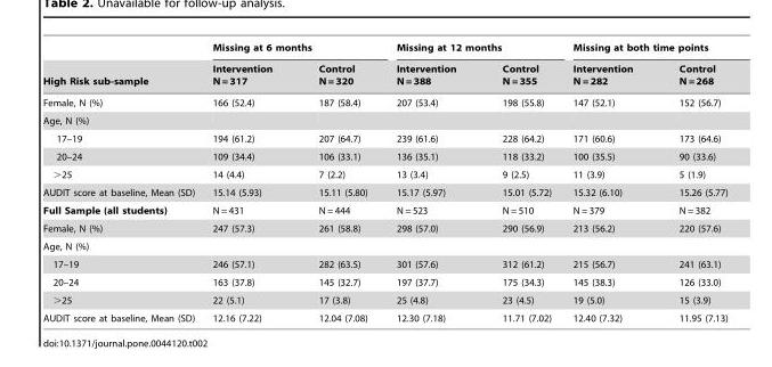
<table><thead><tr><td rowspan="2">High Risk sub-sample</td><td colspan="2">Missing at 6 months</td><td colspan="2">Missing at 12 months</td><td colspan="2">Missing at both time points</td></tr><tr><td>Intervention N = 317</td><td>Control N = 320</td><td>Intervention N = 388</td><td>Control N = 355</td><td>Intervention N = 282</td><td>Control N = 268</td></tr></thead><tbody><tr><td>Female, N (%)</td><td>166 (52.4)</td><td>187 (58.4)</td><td>207 (53.4)</td><td>198 (55.8)</td><td>147 (52.1)</td><td>152 (56.7)</td></tr><tr><td colspan="7">Age, N (%)</td></tr><tr><td>17–19</td><td>194 (61.2)</td><td>207 (64.7)</td><td>239 (61.6)</td><td>228 (64.2)</td><td>171 (60.6)</td><td>173 (64.6)</td></tr><tr><td>20–24</td><td>109 (34.4)</td><td>106 (33.1)</td><td>136 (35.1)</td><td>118 (33.2)</td><td>100 (35.5)</td><td>90 (33.6)</td></tr><tr><td>&gt;25</td><td>14 (4.4)</td><td>7 (2.2)</td><td>13 (3.4)</td><td>9 (2.5)</td><td>11 (3.9)</td><td>5 (1.9)</td></tr><tr><td>AUDIT score at baseline, Mean (SD)</td><td>15.14 (5.93)</td><td>15.11 (5.80)</td><td>15.17 (5.97)</td><td>15.01 (5.72)</td><td>15.32 (6.10)</td><td>15.26 (5.77)</td></tr><tr><td>Full Sample (all students)</td><td>N = 431</td><td>N = 444</td><td>N = 523</td><td>N = 510</td><td>N = 379</td><td>N = 382</td></tr><tr><td>Female, N (%)</td><td>247 (57.3)</td><td>261 (58.8)</td><td>298 (57.0)</td><td>290 (56.9)</td><td>213 (56.2)</td><td>220 (57.6)</td></tr><tr><td colspan="7">Age, N (%)</td></tr><tr><td>17–19</td><td>246 (57.1)</td><td>282 (63.5)</td><td>301 (57.6)</td><td>312 (61.2)</td><td>215 (56.7)</td><td>241 (63.1)</td></tr><tr><td>20–24</td><td>163 (37.8)</td><td>145 (32.7)</td><td>197 (37.7)</td><td>175 (34.3)</td><td>145 (38.3)</td><td>126 (33.0)</td></tr><tr><td>&gt;25</td><td>22 (5.1)</td><td>17 (3.8)</td><td>25 (4.8)</td><td>23 (4.5)</td><td>19 (5.0)</td><td>15 (3.9)</td></tr><tr><td>AUDIT score at baseline, Mean (SD)</td><td>12.16 (7.22)</td><td>12.04 (7.08)</td><td>12.30 (7.18)</td><td>11.71 (7.02)</td><td>12.40 (7.32)</td><td>11.95 (7.13)</td></tr></tbody></table>